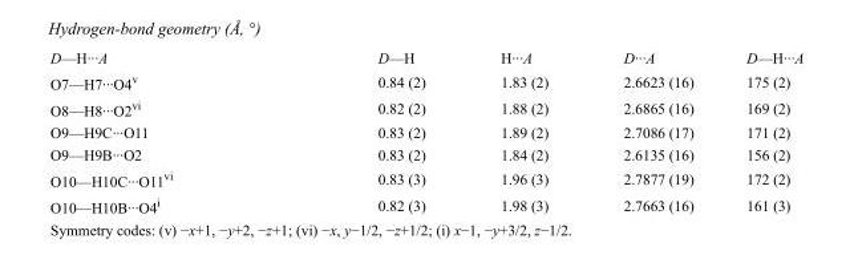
<table><tbody><tr><td>D—H···A</td><td>D—H</td><td>H···A</td><td>D···A</td><td>D—H···A</td></tr><tr><td>O7—H7···O4<sup>v</sup></td><td>0.84 (2)</td><td>1.83 (2)</td><td>2.6623 (16)</td><td>175 (2)</td></tr><tr><td>O8—H8···O2<sup>vi</sup></td><td>0.82 (2)</td><td>1.88 (2)</td><td>2.6865 (16)</td><td>169 (2)</td></tr><tr><td>O9—H9C···O11</td><td>0.83 (2)</td><td>1.89 (2)</td><td>2.7086 (17)</td><td>171 (2)</td></tr><tr><td>O9—H9B···O2</td><td>0.83 (2)</td><td>1.84 (2)</td><td>2.6135 (16)</td><td>156 (2)</td></tr><tr><td>O10—H10C···O11<sup>vi</sup></td><td>0.83 (3)</td><td>1.96 (3)</td><td>2.7877 (19)</td><td>172 (2)</td></tr><tr><td>O10—H10B···O4<sup>i</sup></td><td>0.82 (3)</td><td>1.98 (3)</td><td>2.7663 (16)</td><td>161 (3)</td></tr></tbody></table>